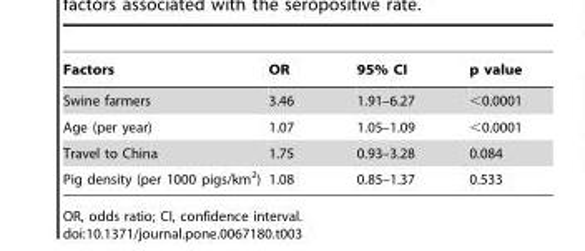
<table><thead><tr><td>Factors</td><td>OR</td><td>95% CI</td><td>p value</td></tr></thead><tbody><tr><td>Swine farmers</td><td>3.46</td><td>1.91–6.27</td><td>&lt;0.0001</td></tr><tr><td>Age (per year)</td><td>1.07</td><td>1.05–1.09</td><td>&lt;0.0001</td></tr><tr><td>Travel to China</td><td>1.75</td><td>0.93–3.28</td><td>0.084</td></tr><tr><td>Pig density (per 1000 pigs/km<sup>2</sup>)</td><td>1.08</td><td>0.85–1.37</td><td>0.533</td></tr></tbody></table>